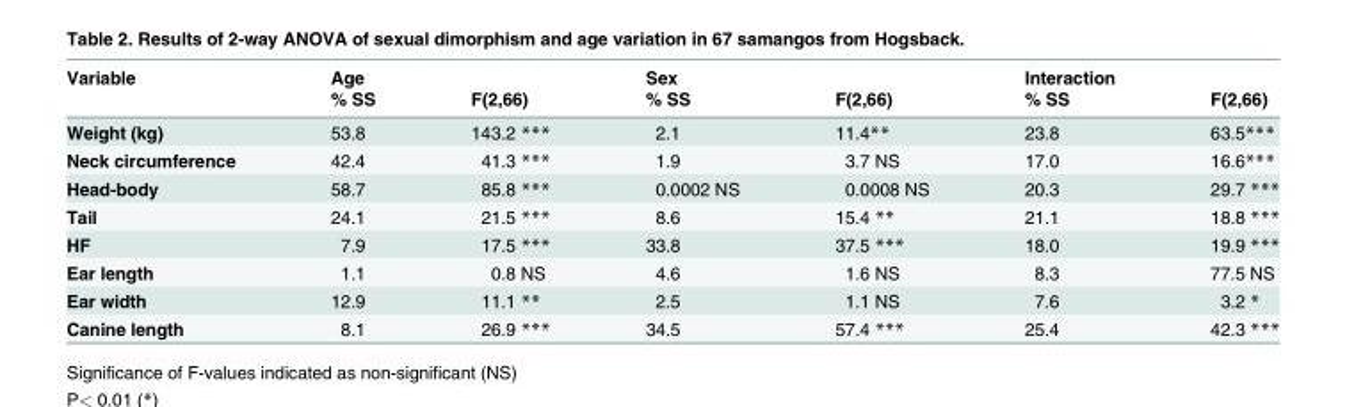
<table><thead><tr><td rowspan="2">Variable</td><td rowspan="2">Age % SS</td><td rowspan="2">F(2,66)</td><td rowspan="2">Sex % SS</td><td rowspan="2">F(2,66)</td><td rowspan="2">Interaction % SS</td><td rowspan="2">F(2,66)</td></tr><tr></tr></thead><tbody><tr><td>Weight (kg)</td><td>53.8</td><td>143.2 ***</td><td>2.1</td><td>11.4**</td><td>23.8</td><td>63.5***</td></tr><tr><td>Neck circumference</td><td>42.4</td><td>41.3 ***</td><td>1.9</td><td>3.7 NS</td><td>17.0</td><td>16.6***</td></tr><tr><td>Head-body</td><td>58.7</td><td>85.8 ***</td><td>0.0002 NS</td><td>0.0008 NS</td><td>20.3</td><td>29.7 ***</td></tr><tr><td>Tail</td><td>24.1</td><td>21.5 ***</td><td>8.6</td><td>15.4 **</td><td>21.1</td><td>18.8 ***</td></tr><tr><td>HF</td><td>7.9</td><td>17.5 ***</td><td>33.8</td><td>37.5 ***</td><td>18.0</td><td>19.9 ***</td></tr><tr><td>Ear length</td><td>1.1</td><td>0.8 NS</td><td>4.6</td><td>1.6 NS</td><td>8.3</td><td>77.5 NS</td></tr><tr><td>Ear width</td><td>12.9</td><td>11.1 **</td><td>2.5</td><td>1.1 NS</td><td>7.6</td><td>3.2 *</td></tr><tr><td>Canine length</td><td>8.1</td><td>26.9 ***</td><td>34.5</td><td>57.4 ***</td><td>25.4</td><td>42.3 ***</td></tr></tbody></table>